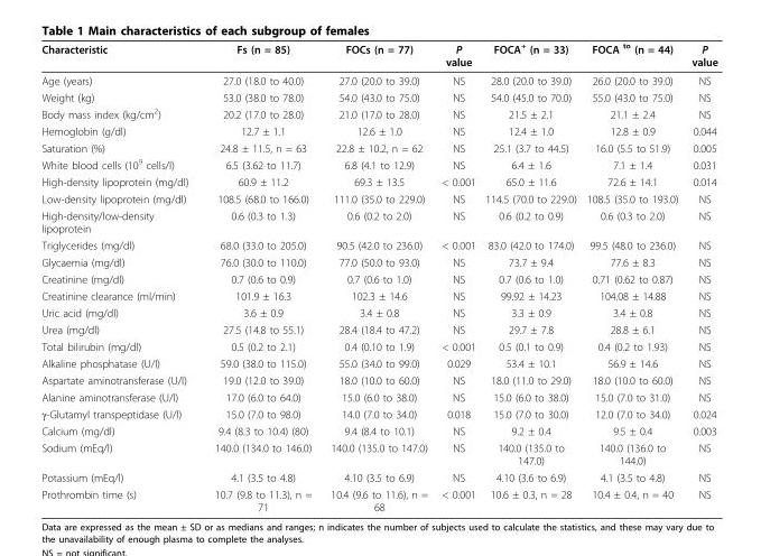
<table><thead><tr><td>Characteristic</td><td>Fs (n = 85)</td><td>FOCs (n = 77)</td><td>P value</td><td>FOCA<sup>+</sup> (n = 33)</td><td>FOCA <sup>to</sup> (n = 44)</td><td>P value</td></tr></thead><tbody><tr><td>Age (years)</td><td>27.0 (18.0 to 40.0)</td><td>27.0 (20.0 to 39.0)</td><td>NS</td><td>28.0 (20.0 to 39.0)</td><td>26.0 (20.0 to 39.0)</td><td>NS</td></tr><tr><td>Weight (kg)</td><td>53.0 (38.0 to 78.0)</td><td>54.0 (43.0 to 75.0)</td><td>NS</td><td>54.0 (45.0 to 70.0)</td><td>55.0 (43.0 to 75.0)</td><td>NS</td></tr><tr><td>Body mass index (kg/cm<sup>2</sup>)</td><td>20.2 (17.0 to 28.0)</td><td>21.0 (17.0 to 28.0)</td><td>NS</td><td>21.5 ± 2.1</td><td>21.1 ± 2.4</td><td>NS</td></tr><tr><td>Hemoglobin (g/dl)</td><td>12.7 ± 1.1</td><td>12.6 ± 1.0</td><td>NS</td><td>12.4 ± 1.0</td><td>12.8 ± 0.9</td><td>0.044</td></tr><tr><td>Saturation (%)</td><td>24.8 ± 11.5, n = 63</td><td>22.8 ± 10.2, n = 62</td><td>NS</td><td>25.1 (3.7 to 44.5)</td><td>16.0 (5.5 to 51.9)</td><td>0.005</td></tr><tr><td>White blood cells (10<sup>9</sup> cells/l)</td><td>6.5 (3.62 to 11.7)</td><td>6.8 (4.1 to 12.9)</td><td>NS</td><td>6.4 ± 1.6</td><td>7.1 ± 1.4</td><td>0.031</td></tr><tr><td>High-density lipoprotein (mg/dl)</td><td>60.9 ± 11.2</td><td>69.3 ± 13.5</td><td>&lt; 0.001</td><td>65.0 ± 11.6</td><td>72.6 ± 14.1</td><td>0.014</td></tr><tr><td>Low-density lipoprotein (mg/dl)</td><td>108.5 (68.0 to 166.0)</td><td>111.0 (35.0 to 229.0)</td><td>NS</td><td>114.5 (70.0 to 229.0)</td><td>108.5 (35.0 to 193.0)</td><td>NS</td></tr><tr><td>High-density/low-density lipoprotein</td><td>0.6 (0.3 to 1.3)</td><td>0.6 (0.2 to 2.0)</td><td>NS</td><td>0.6 (0.2 to 0.9)</td><td>0.6 (0.3 to 2.0)</td><td>NS</td></tr><tr><td>Triglycerides (mg/dl)</td><td>68.0 (33.0 to 205.0)</td><td>90.5 (42.0 to 236.0)</td><td>&lt; 0.001</td><td>83.0 (42.0 to 174.0)</td><td>99.5 (48.0 to 236.0)</td><td>NS</td></tr><tr><td>Glycaemia (mg/dl)</td><td>76.0 (30.0 to 110.0)</td><td>77.0 (50.0 to 93.0)</td><td>NS</td><td>73.7 ± 9.4</td><td>77.6 ± 8.3</td><td>NS</td></tr><tr><td>Creatinine (mg/dl)</td><td>0.7 (0.6 to 0.9)</td><td>0.7 (0.6 to 1.0)</td><td>NS</td><td>0.7 (0.6 to 1.0)</td><td>0.71 (0.62 to 0.87)</td><td>NS</td></tr><tr><td>Creatinine clearance (ml/min)</td><td>101.9 ± 16.3</td><td>102.3 ± 14.6</td><td>NS</td><td>99.92 ± 14.23</td><td>104.08 ± 14.88</td><td>NS</td></tr><tr><td>Uric acid (mg/dl)</td><td>3.6 ± 0.9</td><td>3.4 ± 0.8</td><td>NS</td><td>3.3 ± 0.9</td><td>3.4 ± 0.8</td><td>NS</td></tr><tr><td>Urea (mg/dl)</td><td>27.5 (14.8 to 55.1)</td><td>28.4 (18.4 to 47.2)</td><td>NS</td><td>29.7 ± 7.8</td><td>28.8 ± 6.1</td><td>NS</td></tr><tr><td>Total bilirubin (mg/dl)</td><td>0.5 (0.2 to 2.1)</td><td>0.4 (0.10 to 1.9)</td><td>&lt; 0.001</td><td>0.5 (0.1 to 0.9)</td><td>0.4 (0.2 to 1.93)</td><td>NS</td></tr><tr><td>Alkaline phosphatase (U/l)</td><td>59.0 (38.0 to 115.0)</td><td>55.0 (34.0 to 99.0)</td><td>0.029</td><td>53.4 ± 10.1</td><td>56.9 ± 14.6</td><td>NS</td></tr><tr><td>Aspartate aminotransferase (U/l)</td><td>19.0 (12.0 to 39.0)</td><td>18.0 (10.0 to 60.0)</td><td>NS</td><td>18.0 (11.0 to 29.0)</td><td>18.0 (10.0 to 60.0)</td><td>NS</td></tr><tr><td>Alanine aminotransferase (U/l)</td><td>17.0 (6.0 to 64.0)</td><td>15.0 (6.0 to 38.0)</td><td>NS</td><td>15.0 (6.0 to 38.0)</td><td>15.0 (7.0 to 31.0)</td><td>NS</td></tr><tr><td>γ-Glutamyl transpeptidase (U/l)</td><td>15.0 (7.0 to 98.0)</td><td>14.0 (7.0 to 34.0)</td><td>0.018</td><td>15.0 (7.0 to 30.0)</td><td>12.0 (7.0 to 34.0)</td><td>0.024</td></tr><tr><td>Calcium (mg/dl)</td><td>9.4 (8.3 to 10.4) (80)</td><td>9.4 (8.4 to 10.1)</td><td>NS</td><td>9.2 ± 0.4</td><td>9.5 ± 0.4</td><td>0.003</td></tr><tr><td>Sodium (mEq/l)</td><td>140.0 (134.0 to 146.0)</td><td>140.0 (135.0 to 147.0)</td><td>NS</td><td>140.0 (135.0 to 147.0)</td><td>140.0 (136.0 to 144.0)</td><td>NS</td></tr><tr><td>Potassium (mEq/l)</td><td>4.1 (3.5 to 4.8)</td><td>4.10 (3.5 to 6.9)</td><td>NS</td><td>4.10 (3.6 to 6.9)</td><td>4.1 (3.5 to 4.8)</td><td>NS</td></tr><tr><td>Prothrombin time (s)</td><td>10.7 (9.8 to 11.3), n = 71</td><td>10.4 (9.6 to 11.6), n = 68</td><td>&lt; 0.001</td><td>10.6 ± 0.3, n = 28</td><td>10.4 ± 0.4, n = 40</td><td>NS</td></tr></tbody></table>